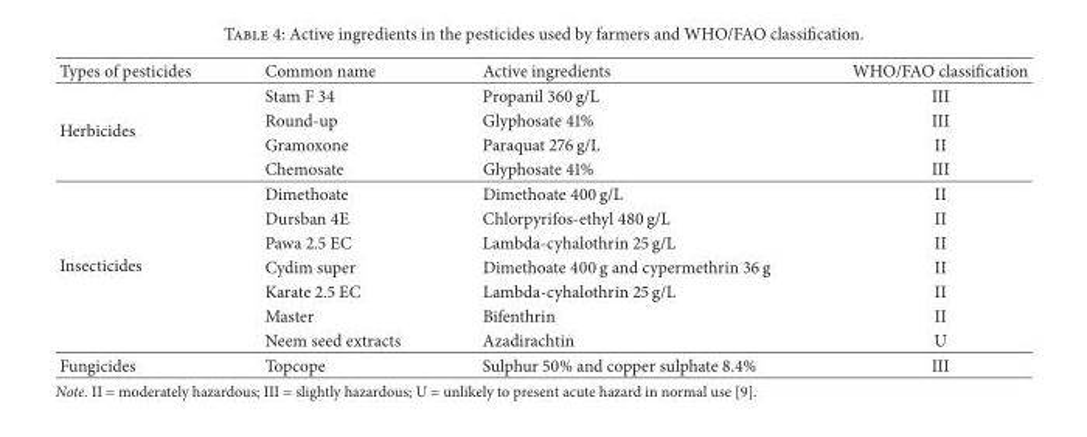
<table><thead><tr><td>Types of pesticides</td><td>Common name</td><td>Active ingredients</td><td>WHO/FAO classification</td></tr></thead><tbody><tr><td rowspan="4">Herbicides</td><td>Stam F 34</td><td>Propanil 360 g/L</td><td>III</td></tr><tr><td>Round-up</td><td>Glyphosate 41%</td><td>III</td></tr><tr><td>Gramoxone</td><td>Paraquat 276 g/L</td><td>II</td></tr><tr><td>Chemosate</td><td>Glyphosate 41%</td><td>III</td></tr><tr><td rowspan="7">Insecticides</td><td>Dimethoate</td><td>Dimethoate 400 g/L</td><td>II</td></tr><tr><td>Dursban 4E</td><td>Chlorpyrifos-ethyl 480 g/L</td><td>II</td></tr><tr><td>Pawa 2.5 EC</td><td>Lambda-cyhalothrin 25 g/L</td><td>II</td></tr><tr><td>Cydim super</td><td>Dimethoate 400 g and cypermethrin 36 g</td><td>II</td></tr><tr><td>Karate 2.5 EC</td><td>Lambda-cyhalothrin 25 g/L</td><td>II</td></tr><tr><td>Master</td><td>Bifenthrin</td><td>II</td></tr><tr><td>Neem seed extracts</td><td>Azadirachtin</td><td>U</td></tr><tr><td>Fungicides</td><td>Topcope</td><td>Sulphur 50% and copper sulphate 8.4%</td><td>III</td></tr></tbody></table>